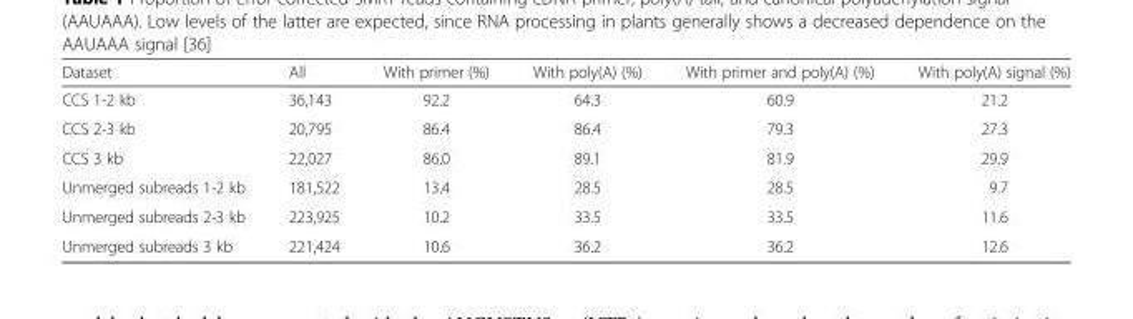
<table><thead><tr><td>Dataset</td><td>All</td><td>With primer (%)</td><td>With poly(A) (%)</td><td>With primer and poly(A) (%)</td><td>With poly(A) signal (%)</td></tr></thead><tbody><tr><td>CCS 1-2 kb</td><td>36,143</td><td>92.2</td><td>64.3</td><td>60.9</td><td>21.2</td></tr><tr><td>CCS 2-3 kb</td><td>20,795</td><td>86.4</td><td>86.4</td><td>79.3</td><td>27.3</td></tr><tr><td>CCS 3 kb</td><td>22,027</td><td>86.0</td><td>89.1</td><td>81.9</td><td>29.9</td></tr><tr><td>Unmerged subreads 1-2 kb</td><td>181,522</td><td>13.4</td><td>28.5</td><td>28.5</td><td>9.7</td></tr><tr><td>Unmerged subreads 2-3 kb</td><td>223,925</td><td>10.2</td><td>33.5</td><td>33.5</td><td>11.6</td></tr><tr><td>Unmerged subreads 3 kb</td><td>221,424</td><td>10.6</td><td>36.2</td><td>36.2</td><td>12.6</td></tr></tbody></table>